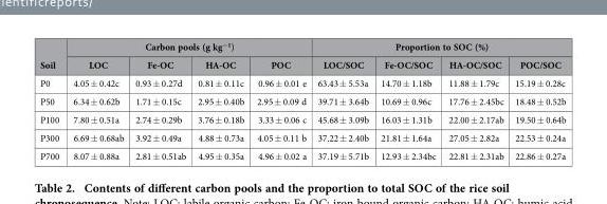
<table><thead><tr><td rowspan="2">Soil</td><td colspan="4">Carbon pools (g kg<sup>−1</sup>)</td><td colspan="4">Proportion to SOC (%)</td></tr><tr><td>LOC</td><td>Fe-OC</td><td>HA-OC</td><td>POC</td><td>LOC/SOC</td><td>Fe-OC/SOC</td><td>HA-OC/SOC</td><td>POC/SOC</td></tr></thead><tbody><tr><td>P0</td><td>4.05 ± 0.42c</td><td>0.93 ± 0.27d</td><td>0.81 ± 0.11c</td><td>0.96 ± 0.01 e</td><td>63.43 ± 5.53a</td><td>14.70 ± 1.18b</td><td>11.88 ± 1.79c</td><td>15.19 ± 0.28c</td></tr><tr><td>P50</td><td>6.34 ± 0.62b</td><td>1.71 ± 0.15c</td><td>2.95 ± 0.40b</td><td>2.95 ± 0.09 d</td><td>39.71 ± 3.64b</td><td>10.69 ± 0.96c</td><td>17.76 ± 2.45bc</td><td>18.48 ± 0.52b</td></tr><tr><td>P100</td><td>7.80 ± 0.51a</td><td>2.74 ± 0.29b</td><td>3.76 ± 0.18b</td><td>3.33 ± 0.06 c</td><td>45.68 ± 3.09b</td><td>16.03 ± 1.31b</td><td>22.00 ± 2.17ab</td><td>19.50 ± 0.64b</td></tr><tr><td>P300</td><td>6.69 ± 0.68ab</td><td>3.92 ± 0.49a</td><td>4.88 ± 0.73a</td><td>4.05 ± 0.11 b</td><td>37.22 ± 2.40b</td><td>21.81 ± 1.64a</td><td>27.05 ± 2.82a</td><td>22.53 ± 0.24a</td></tr><tr><td>P700</td><td>8.07 ± 0.88a</td><td>2.81 ± 0.51ab</td><td>4.95 ± 0.35a</td><td>4.96 ± 0.02 a</td><td>37.19 ± 5.71b</td><td>12.93 ± 2.34bc</td><td>22.81 ± 2.31ab</td><td>22.86 ± 0.27a</td></tr></tbody></table>